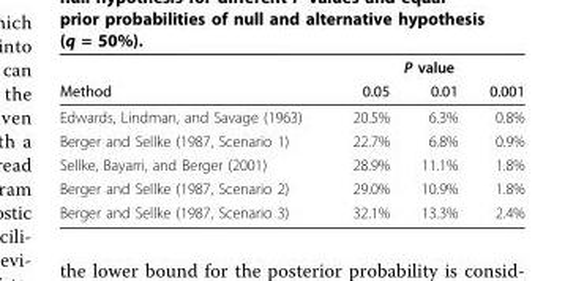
<table><thead><tr><td rowspan="2">Method</td><td colspan="3">P value</td></tr><tr><td>0.05</td><td>0.01</td><td>0.001</td></tr></thead><tbody><tr><td>Edwards, Lindman, and Savage (1963)</td><td>20.5%</td><td>6.3%</td><td>0.8%</td></tr><tr><td>Berger and Sellke (1987, Scenario 1)</td><td>22.7%</td><td>6.8%</td><td>0.9%</td></tr><tr><td>Sellke, Bayarri, and Berger (2001)</td><td>28.9%</td><td>11.1%</td><td>1.8%</td></tr><tr><td>Berger and Sellke (1987, Scenario 2)</td><td>29.0%</td><td>10.9%</td><td>1.8%</td></tr><tr><td>Berger and Sellke (1987, Scenario 3)</td><td>32.1%</td><td>13.3%</td><td>2.4%</td></tr></tbody></table>